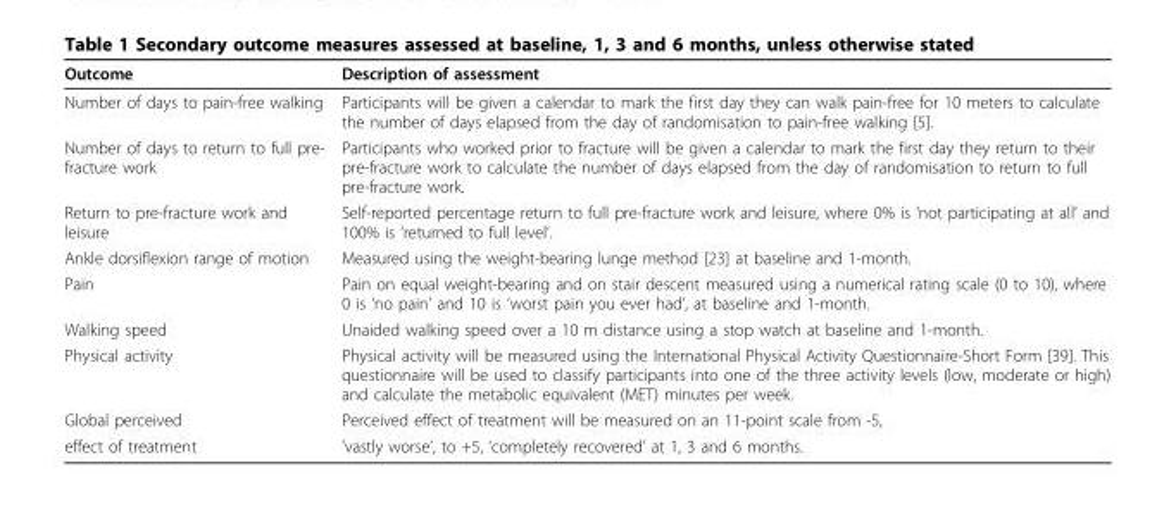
<table><thead><tr><td>Outcome</td><td>Description of assessment</td></tr></thead><tbody><tr><td>Number of days to pain-free walking</td><td>Participants will be given a calendar to mark the first day they can walk pain-free for 10 meters to calculate the number of days elapsed from the day of randomisation to pain-free walking [5].</td></tr><tr><td>Number of days to return to full pre- fracture work</td><td>Participants who worked prior to fracture will be given a calendar to mark the first day they return to their pre-fracture work to calculate the number of days elapsed from the day of randomisation to return to full pre-fracture work.</td></tr><tr><td>Return to pre-fracture work and leisure</td><td>Self-reported percentage return to full pre-fracture work and leisure, where 0% is ‘not participating at all’ and 100% is ‘returned to full level’.</td></tr><tr><td>Ankle dorsiflexion range of motion</td><td>Measured using the weight-bearing lunge method [23] at baseline and 1-month.</td></tr><tr><td>Pain</td><td>Pain on equal weight-bearing and on stair descent measured using a numerical rating scale (0 to 10), where 0 is ‘no pain’ and 10 is ‘worst pain you ever had’, at baseline and 1-month.</td></tr><tr><td>Walking speed</td><td>Unaided walking speed over a 10 m distance using a stop watch at baseline and 1-month.</td></tr><tr><td>Physical activity</td><td>Physical activity will be measured using the International Physical Activity Questionnaire-Short Form [39]. This questionnaire will be used to classify participants into one of the three activity levels (low, moderate or high) and calculate the metabolic equivalent (MET) minutes per week.</td></tr><tr><td>Global perceived</td><td>Perceived effect of treatment will be measured on an 11-point scale from -5,</td></tr><tr><td>effect of treatment</td><td>’vastly worse’, to +5, ‘completely recovered’ at 1, 3 and 6 months.</td></tr></tbody></table>